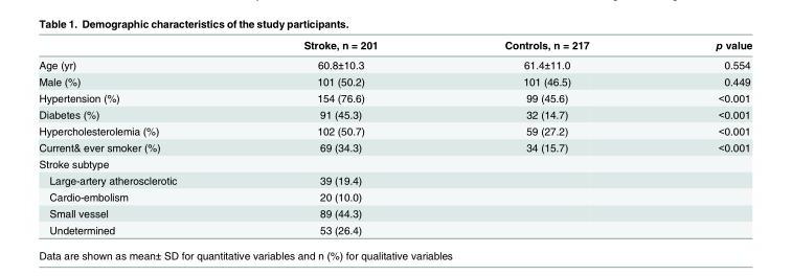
<table><thead><tr><td></td><td>Stroke, n = 201</td><td>Controls, n = 217</td><td>p value</td></tr></thead><tbody><tr><td>Age (yr)</td><td>60.8±10.3</td><td>61.4±11.0</td><td>0.554</td></tr><tr><td>Male (%)</td><td>101 (50.2)</td><td>101 (46.5)</td><td>0.449</td></tr><tr><td>Hypertension (%)</td><td>154 (76.6)</td><td>99 (45.6)</td><td>&lt;0.001</td></tr><tr><td>Diabetes (%)</td><td>91 (45.3)</td><td>32 (14.7)</td><td>&lt;0.001</td></tr><tr><td>Hypercholesterolemia (%)</td><td>102 (50.7)</td><td>59 (27.2)</td><td>&lt;0.001</td></tr><tr><td>Current&amp; ever smoker (%)</td><td>69 (34.3)</td><td>34 (15.7)</td><td>&lt;0.001</td></tr><tr><td colspan="4">Stroke subtype</td></tr><tr><td>Large-artery atherosclerotic</td><td>39 (19.4)</td><td></td><td></td></tr><tr><td>Cardio-embolism</td><td>20 (10.0)</td><td></td><td></td></tr><tr><td>Small vessel</td><td>89 (44.3)</td><td></td><td></td></tr><tr><td>Undetermined</td><td>53 (26.4)</td><td></td><td></td></tr></tbody></table>